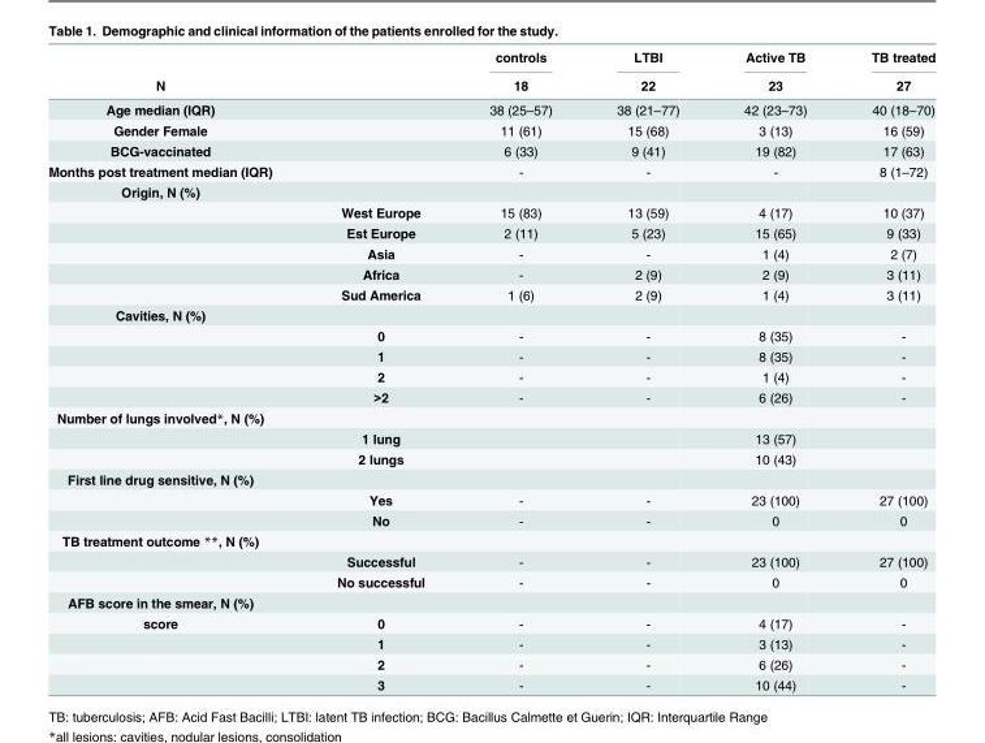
<table><thead><tr><td rowspan="2">N</td><td rowspan="2"></td><td rowspan="2">controls 18</td><td rowspan="2">LTBI 22</td><td rowspan="2">Active TB 23</td><td rowspan="2">TB treated 27</td></tr><tr></tr></thead><tbody><tr><td>Age median (IQR)</td><td></td><td>38 (25–57)</td><td>38 (21–77)</td><td>42 (23–73)</td><td>40 (18–70)</td></tr><tr><td>Gender Female</td><td></td><td>11 (61)</td><td>15 (68)</td><td>3 (13)</td><td>16 (59)</td></tr><tr><td>BCG-vaccinated</td><td></td><td>6 (33)</td><td>9 (41)</td><td>19 (82)</td><td>17 (63)</td></tr><tr><td>Months post treatment median (IQR)</td><td></td><td>-</td><td>-</td><td>-</td><td>8 (1–72)</td></tr><tr><td colspan="6">Origin, N (%)</td></tr><tr><td></td><td>West Europe</td><td>15 (83)</td><td>13 (59)</td><td>4 (17)</td><td>10 (37)</td></tr><tr><td></td><td>Est Europe</td><td>2 (11)</td><td>5 (23)</td><td>15 (65)</td><td>9 (33)</td></tr><tr><td></td><td>Asia</td><td>-</td><td>-</td><td>1 (4)</td><td>2 (7)</td></tr><tr><td></td><td>Africa</td><td>-</td><td>2 (9)</td><td>2 (9)</td><td>3 (11)</td></tr><tr><td></td><td>Sud America</td><td>1 (6)</td><td>2 (9)</td><td>1 (4)</td><td>3 (11)</td></tr><tr><td colspan="6">Cavities, N (%)</td></tr><tr><td></td><td>0</td><td>-</td><td>-</td><td>8 (35)</td><td>-</td></tr><tr><td></td><td>1</td><td>-</td><td>-</td><td>8 (35)</td><td>-</td></tr><tr><td></td><td>2</td><td>-</td><td>-</td><td>1 (4)</td><td>-</td></tr><tr><td></td><td>&gt;2</td><td>-</td><td>-</td><td>6 (26)</td><td>-</td></tr><tr><td colspan="6">Number of lungs involved*, N (%)</td></tr><tr><td></td><td>1 lung</td><td></td><td></td><td>13 (57)</td><td></td></tr><tr><td></td><td>2 lungs</td><td></td><td></td><td>10 (43)</td><td></td></tr><tr><td colspan="6">First line drug sensitive, N (%)</td></tr><tr><td></td><td>Yes</td><td>-</td><td>-</td><td>23 (100)</td><td>27 (100)</td></tr><tr><td></td><td>No</td><td>-</td><td>-</td><td>0</td><td>0</td></tr><tr><td colspan="6">TB treatment outcome **, N (%)</td></tr><tr><td></td><td>Successful</td><td>-</td><td>-</td><td>23 (100)</td><td>27 (100)</td></tr><tr><td></td><td>No successful</td><td>-</td><td>-</td><td>0</td><td>0</td></tr><tr><td colspan="6">AFB score in the smear, N (%)</td></tr><tr><td rowspan="4">score</td><td>0</td><td>-</td><td>-</td><td>4 (17)</td><td>-</td></tr><tr><td>1</td><td>-</td><td>-</td><td>3 (13)</td><td>-</td></tr><tr><td>2</td><td>-</td><td>-</td><td>6 (26)</td><td>-</td></tr><tr><td>3</td><td>-</td><td>-</td><td>10 (44)</td><td>-</td></tr></tbody></table>